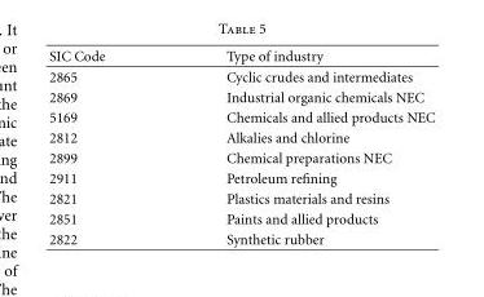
<table><thead><tr><td>SIC Code</td><td>Type of industry</td></tr></thead><tbody><tr><td>2865</td><td>Cyclic crudes and intermediates</td></tr><tr><td>2869</td><td>Industrial organic chemicals NEC</td></tr><tr><td>5169</td><td>Chemicals and allied products NEC</td></tr><tr><td>2812</td><td>Alkalies and chlorine</td></tr><tr><td>2899</td><td>Chemical preparations NEC</td></tr><tr><td>2911</td><td>Petroleum refining</td></tr><tr><td>2821</td><td>Plastics materials and resins</td></tr><tr><td>2851</td><td>Paints and allied products</td></tr><tr><td>2822</td><td>Synthetic rubber</td></tr></tbody></table>